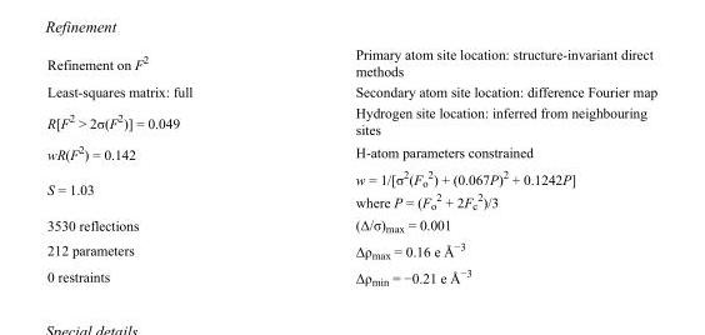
<table><tbody><tr><td>Refinement on F<sup>2</sup></td><td>Primary atom site location: structure-invariant direct methods</td></tr><tr><td>Least-squares matrix: full</td><td>Secondary atom site location: difference Fourier map</td></tr><tr><td>R[F<sup>2</sup> &gt; 2σ(F<sup>2</sup>)] = 0.049</td><td>Hydrogen site location: inferred from neighbouring sites</td></tr><tr><td>wR(F<sup>2</sup>) = 0.142</td><td>H-atom parameters constrained</td></tr><tr><td>S = 1.03</td><td>w = 1/[σ<sup>2</sup>(F<sub>o</sub> <sup>2</sup>) + (0.067P)<sup>2</sup> + 0.1242P] where P = (F<sub>o</sub> <sup>2</sup> + 2F<sub>c</sub> <sup>2</sup>)/3</td></tr><tr><td>3530 reflections</td><td>(Δ/σ)<sub>max</sub> = 0.001</td></tr><tr><td>212 parameters</td><td>Δρ<sub>max</sub> = 0.16 e Å<sup>−3</sup></td></tr><tr><td>0 restraints</td><td>Δρ<sub>min</sub> = −0.21 e Å<sup>−3</sup></td></tr></tbody></table>